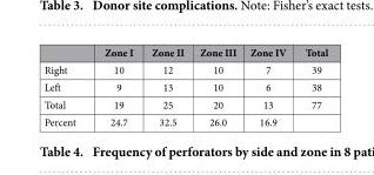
<table><thead><tr><td></td><td>Zone I</td><td>Zone II</td><td>Zone III</td><td>Zone IV</td><td>Total</td></tr></thead><tbody><tr><td>Right</td><td>10</td><td>12</td><td>10</td><td>7</td><td>39</td></tr><tr><td>Left</td><td>9</td><td>13</td><td>10</td><td>6</td><td>38</td></tr><tr><td>Total</td><td>19</td><td>25</td><td>20</td><td>13</td><td>77</td></tr><tr><td>Percent</td><td>24.7</td><td>32.5</td><td>26.0</td><td>16.9</td><td></td></tr></tbody></table>